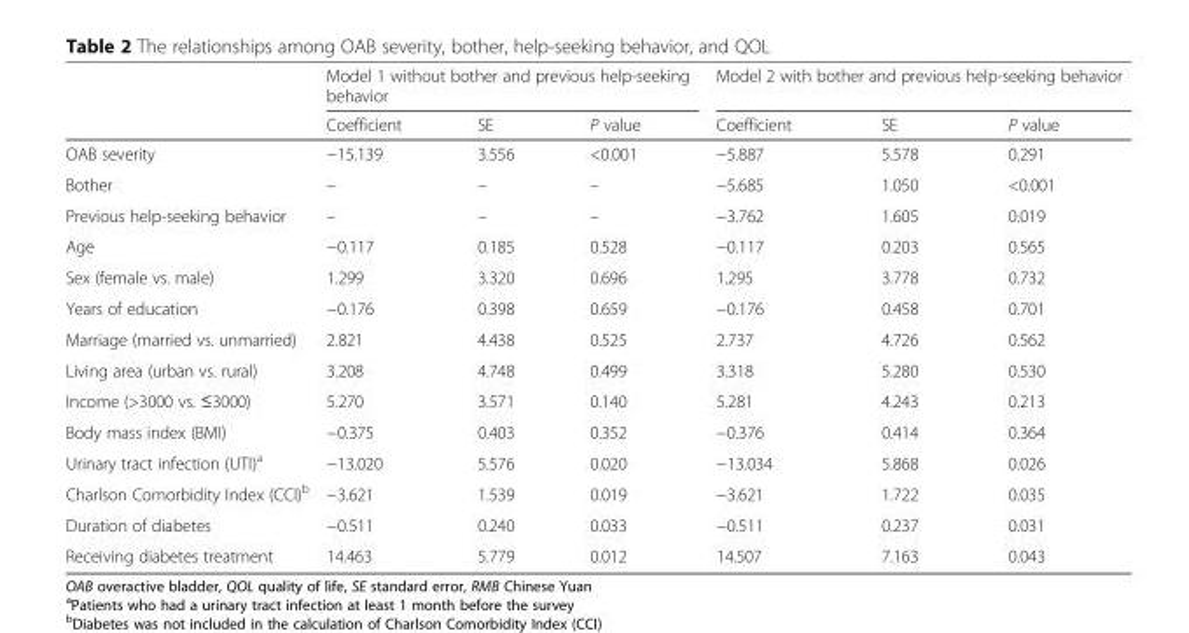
<table><thead><tr><td rowspan="2"></td><td colspan="3">Model 1 without bother and previous help-seeking behavior</td><td colspan="3">Model 2 with bother and previous help-seeking behavior</td></tr><tr><td>Coefficient</td><td>SE</td><td>P value</td><td>Coefficient</td><td>SE</td><td>P value</td></tr></thead><tbody><tr><td>OAB severity</td><td>−15.139</td><td>3.556</td><td>&lt;0.001</td><td>−5.887</td><td>5.578</td><td>0.291</td></tr><tr><td>Bother</td><td>–</td><td>–</td><td>–</td><td>−5.685</td><td>1.050</td><td>&lt;0.001</td></tr><tr><td>Previous help-seeking behavior</td><td>–</td><td>–</td><td>–</td><td>−3.762</td><td>1.605</td><td>0.019</td></tr><tr><td>Age</td><td>−0.117</td><td>0.185</td><td>0.528</td><td>−0.117</td><td>0.203</td><td>0.565</td></tr><tr><td>Sex (female vs. male)</td><td>1.299</td><td>3.320</td><td>0.696</td><td>1.295</td><td>3.778</td><td>0.732</td></tr><tr><td>Years of education</td><td>−0.176</td><td>0.398</td><td>0.659</td><td>−0.176</td><td>0.458</td><td>0.701</td></tr><tr><td>Marriage (married vs. unmarried)</td><td>2.821</td><td>4.438</td><td>0.525</td><td>2.737</td><td>4.726</td><td>0.562</td></tr><tr><td>Living area (urban vs. rural)</td><td>3.208</td><td>4.748</td><td>0.499</td><td>3.318</td><td>5.280</td><td>0.530</td></tr><tr><td>Income (&gt;3000 vs. ≤3000)</td><td>5.270</td><td>3.571</td><td>0.140</td><td>5.281</td><td>4.243</td><td>0.213</td></tr><tr><td>Body mass index (BMI)</td><td>−0.375</td><td>0.403</td><td>0.352</td><td>−0.376</td><td>0.414</td><td>0.364</td></tr><tr><td>Urinary tract infection (UTI)<sup>a</sup></td><td>−13.020</td><td>5.576</td><td>0.020</td><td>−13.034</td><td>5.868</td><td>0.026</td></tr><tr><td>Charlson Comorbidity Index (CCI)<sup>b</sup></td><td>−3.621</td><td>1.539</td><td>0.019</td><td>−3.621</td><td>1.722</td><td>0.035</td></tr><tr><td>Duration of diabetes</td><td>−0.511</td><td>0.240</td><td>0.033</td><td>−0.511</td><td>0.237</td><td>0.031</td></tr><tr><td>Receiving diabetes treatment</td><td>14.463</td><td>5.779</td><td>0.012</td><td>14.507</td><td>7.163</td><td>0.043</td></tr></tbody></table>